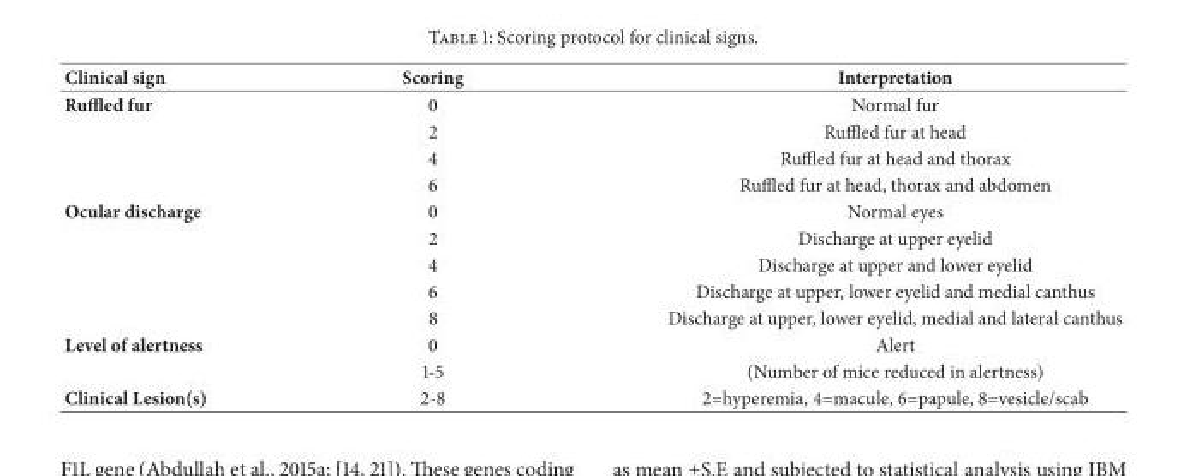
<table><thead><tr><td>Clinical sign</td><td>Scoring</td><td>Interpretation</td></tr></thead><tbody><tr><td rowspan="4">Ruffled fur</td><td>0</td><td>Normal fur</td></tr><tr><td>2</td><td>Ruffled fur at head</td></tr><tr><td>4</td><td>Ruffled fur at head and thorax</td></tr><tr><td>6</td><td>Ruffled fur at head, thorax and abdomen</td></tr><tr><td rowspan="5">Ocular discharge</td><td>0</td><td>Normal eyes</td></tr><tr><td>2</td><td>Discharge at upper eyelid</td></tr><tr><td>4</td><td>Discharge at upper and lower eyelid</td></tr><tr><td>6</td><td>Discharge at upper, lower eyelid and medial canthus</td></tr><tr><td>8</td><td>Discharge at upper, lower eyelid, medial and lateral canthus</td></tr><tr><td rowspan="2">Level of alertness</td><td>0</td><td>Alert</td></tr><tr><td>1-5</td><td>(Number of mice reduced in alertness)</td></tr><tr><td>Clinical Lesion(s)</td><td>2-8</td><td>2=hyperemia, 4=macule, 6=papule, 8=vesicle/scab</td></tr></tbody></table>